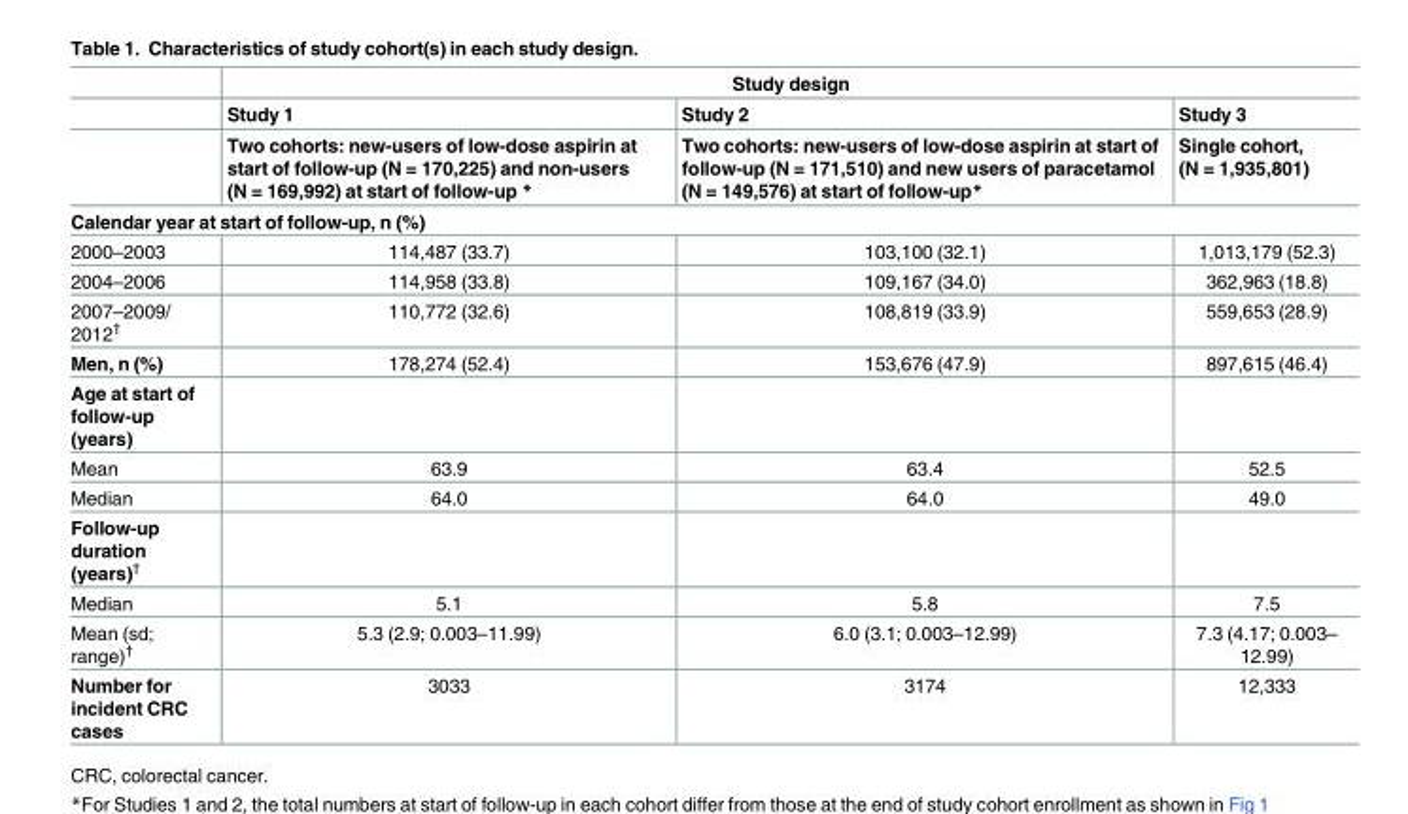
<table><thead><tr><td rowspan="3"></td><td colspan="3">Study design</td></tr><tr><td rowspan="2">Study 1 Two cohorts: new-users of low-dose aspirin at start of follow-up (N = 170,225) and non-users (N = 169,992) at start of follow-up *</td><td rowspan="2">Study 2 Two cohorts: new-users of low-dose aspirin at start of follow-up (N = 171,510) and new users of paracetamol (N = 149,576) at start of follow-up*</td><td rowspan="2">Study 3 Single cohort, (N = 1,935,801)</td></tr><tr></tr></thead><tbody><tr><td colspan="4">Calendar year at start of follow-up, n (%)</td></tr><tr><td>2000–2003</td><td>114,487 (33.7)</td><td>103,100 (32.1)</td><td>1,013,179 (52.3)</td></tr><tr><td>2004–2006</td><td>114,958 (33.8)</td><td>109,167 (34.0)</td><td>362,963 (18.8)</td></tr><tr><td>2007–2009/ 2012<sup>†</sup></td><td>110,772 (32.6)</td><td>108,819 (33.9)</td><td>559,653 (28.9)</td></tr><tr><td>Men, n (%)</td><td>178,274 (52.4)</td><td>153,676 (47.9)</td><td>897,615 (46.4)</td></tr><tr><td colspan="4">Age at start of follow-up (years)</td></tr><tr><td>Mean</td><td>63.9</td><td>63.4</td><td>52.5</td></tr><tr><td>Median</td><td>64.0</td><td>64.0</td><td>49.0</td></tr><tr><td colspan="4">Follow-up duration (years)<sup>†</sup></td></tr><tr><td>Median</td><td>5.1</td><td>5.8</td><td>7.5</td></tr><tr><td>Mean (sd; range)<sup>†</sup></td><td>5.3 (2.9; 0.003–11.99)</td><td>6.0 (3.1; 0.003–12.99)</td><td>7.3 (4.17; 0.003– 12.99)</td></tr><tr><td>Number for incident CRC cases</td><td>3033</td><td>3174</td><td>12,333</td></tr></tbody></table>